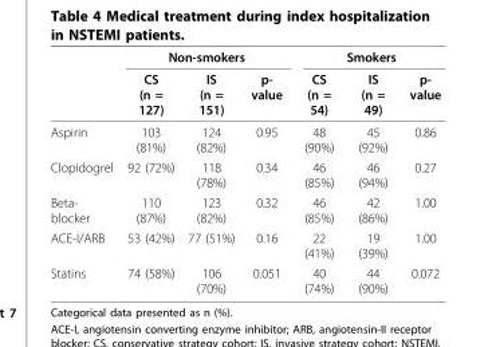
<table><thead><tr><td rowspan="2"></td><td colspan="3">Non-smokers</td><td colspan="3">Smokers</td></tr><tr><td>CS (n = 127)</td><td>IS (n = 151)</td><td>p- value</td><td>CS (n = 54)</td><td>IS (n = 49)</td><td>p- value</td></tr></thead><tbody><tr><td>Aspirin</td><td>103 (81%)</td><td>124 (82%)</td><td>0.95</td><td>48 (90%)</td><td>45 (92%)</td><td>0.86</td></tr><tr><td>Clopidogrel</td><td>92 (72%)</td><td>118 (78%)</td><td>0.34</td><td>46 (85%)</td><td>46 (94%)</td><td>0.27</td></tr><tr><td>Beta- blocker</td><td>110 (87%)</td><td>123 (82%)</td><td>0.32</td><td>46 (85%)</td><td>42 (86%)</td><td>1.00</td></tr><tr><td>ACE-I/ARB</td><td>53 (42%)</td><td>77 (51%)</td><td>0.16</td><td>22 (41%)</td><td>19 (39%)</td><td>1.00</td></tr><tr><td>Statins</td><td>74 (58%)</td><td>106 (70%)</td><td>0.051</td><td>40 (74%)</td><td>44 (90%)</td><td>0.072</td></tr></tbody></table>